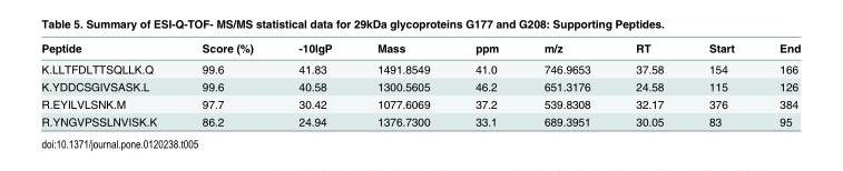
<table><thead><tr><td>Peptide</td><td>Score (%)</td><td>-10lgP</td><td>Mass</td><td>ppm</td><td>m/z</td><td>RT</td><td>Start</td><td>End</td></tr></thead><tbody><tr><td>K.LLTFDLTTSQLLK.Q</td><td>99.6</td><td>41.83</td><td>1491.8549</td><td>41.0</td><td>746.9653</td><td>37.58</td><td>154</td><td>166</td></tr><tr><td>K.YDDCSGIVSASK.L</td><td>99.6</td><td>40.58</td><td>1300.5605</td><td>46.2</td><td>651.3176</td><td>24.58</td><td>115</td><td>126</td></tr><tr><td>R.EYILVLSNK.M</td><td>97.7</td><td>30.42</td><td>1077.6069</td><td>37.2</td><td>539.8308</td><td>32.17</td><td>376</td><td>384</td></tr><tr><td>R.YNGVPSSLNVISK.K</td><td>86.2</td><td>24.94</td><td>1376.7300</td><td>33.1</td><td>689.3951</td><td>30.05</td><td>83</td><td>95</td></tr></tbody></table>